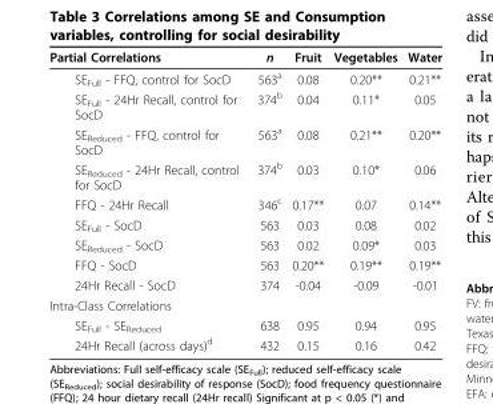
<table><thead><tr><td>Partial Correlations</td><td>n</td><td>Fruit</td><td>Vegetables</td><td>Water</td></tr></thead><tbody><tr><td>SE<sub>Full</sub> - FFQ, control for SocD</td><td>563<sup>a</sup></td><td>0.08</td><td>0.20**</td><td>0.21**</td></tr><tr><td>SE<sub>Full</sub> - 24Hr Recall, control for SocD</td><td>374<sup>b</sup></td><td>0.04</td><td>0.11*</td><td>0.05</td></tr><tr><td>SE<sub>Reduced</sub> - FFQ, control for SocD</td><td>563<sup>a</sup></td><td>0.08</td><td>0.21**</td><td>0.20**</td></tr><tr><td>SE<sub>Reduced</sub> - 24Hr Recall, control for SocD</td><td>374<sup>b</sup></td><td>0.03</td><td>0.10*</td><td>0.06</td></tr><tr><td>FFQ - 24Hr Recall</td><td>346<sup>c</sup></td><td>0.17**</td><td>0.07</td><td>0.14**</td></tr><tr><td>SE<sub>Full</sub> - SocD</td><td>563</td><td>0.03</td><td>0.08</td><td>0.02</td></tr><tr><td>SE<sub>Reduced</sub> - SocD</td><td>563</td><td>0.02</td><td>0.09*</td><td>0.03</td></tr><tr><td>FFQ - SocD</td><td>563</td><td>0.20**</td><td>0.19**</td><td>0.19**</td></tr><tr><td>24Hr Recall - SocD</td><td>374</td><td>-0.04</td><td>-0.09</td><td>-0.01</td></tr><tr><td colspan="5">Intra-Class Correlations</td></tr><tr><td>SE<sub>Full</sub> - SE<sub>Reduced</sub></td><td>638</td><td>0.95</td><td>0.94</td><td>0.95</td></tr><tr><td>24Hr Recall (across days)<sup>d</sup></td><td>432</td><td>0.15</td><td>0.16</td><td>0.42</td></tr></tbody></table>